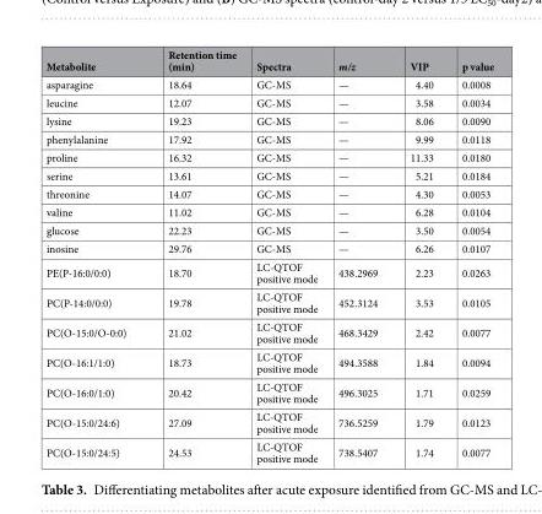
<table><thead><tr><td>Metabolite</td><td>Retention time (min)</td><td>Spectra</td><td>m/z</td><td>VIP</td><td>p value</td></tr></thead><tbody><tr><td>asparagine</td><td>18.64</td><td>GC-MS</td><td>—</td><td>4.40</td><td>0.0008</td></tr><tr><td>leucine</td><td>12.07</td><td>GC-MS</td><td>—</td><td>3.58</td><td>0.0034</td></tr><tr><td>lysine</td><td>19.23</td><td>GC-MS</td><td>—</td><td>8.06</td><td>0.0090</td></tr><tr><td>phenylalanine</td><td>17.92</td><td>GC-MS</td><td>—</td><td>9.99</td><td>0.0118</td></tr><tr><td>proline</td><td>16.32</td><td>GC-MS</td><td>—</td><td>11.33</td><td>0.0180</td></tr><tr><td>serine</td><td>13.61</td><td>GC-MS</td><td>—</td><td>5.21</td><td>0.0184</td></tr><tr><td>threonine</td><td>14.07</td><td>GC-MS</td><td>—</td><td>4.30</td><td>0.0053</td></tr><tr><td>valine</td><td>11.02</td><td>GC-MS</td><td>—</td><td>6.28</td><td>0.0104</td></tr><tr><td>glucose</td><td>22.23</td><td>GC-MS</td><td>—</td><td>3.50</td><td>0.0054</td></tr><tr><td>inosine</td><td>29.76</td><td>GC-MS</td><td>—</td><td>6.26</td><td>0.0107</td></tr><tr><td>PE(P-16:0/0:0)</td><td>18.70</td><td>LC-QTOF positive mode</td><td>438.2969</td><td>2.23</td><td>0.0263</td></tr><tr><td>PC(P-14:0/0:0)</td><td>19.78</td><td>LC-QTOF positive mode</td><td>452.3124</td><td>3.53</td><td>0.0105</td></tr><tr><td>PC(O-15:0/O-0:0)</td><td>21.02</td><td>LC-QTOF positive mode</td><td>468.3429</td><td>2.42</td><td>0.0077</td></tr><tr><td>PC(O-16:1/1:0)</td><td>18.73</td><td>LC-QTOF positive mode</td><td>494.3588</td><td>1.84</td><td>0.0094</td></tr><tr><td>PC(O-16:0/1:0)</td><td>20.42</td><td>LC-QTOF positive mode</td><td>496.3025</td><td>1.71</td><td>0.0259</td></tr><tr><td>PC(O-15:0/24:6)</td><td>27.09</td><td>LC-QTOF positive mode</td><td>736.5259</td><td>1.79</td><td>0.0123</td></tr><tr><td>PC(O-15:0/24:5)</td><td>24.53</td><td>LC-QTOF positive mode</td><td>738.5407</td><td>1.74</td><td>0.0077</td></tr></tbody></table>